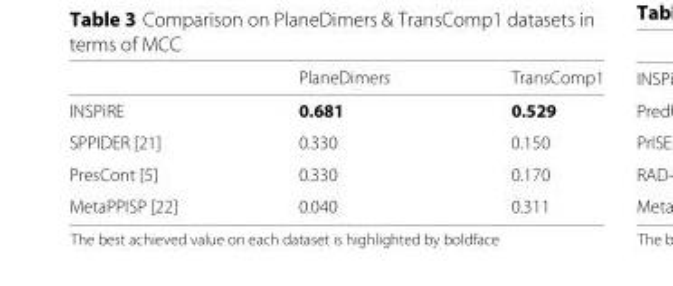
<table><thead><tr><td></td><td>PlaneDimers</td><td>TransComp1</td></tr></thead><tbody><tr><td>INSPiRE</td><td>0.681</td><td>0.529</td></tr><tr><td>SPPIDER [21]</td><td>0.330</td><td>0.150</td></tr><tr><td>PresCont [5]</td><td>0.330</td><td>0.170</td></tr><tr><td>MetaPPISP [22]</td><td>0.040</td><td>0.311</td></tr></tbody></table>